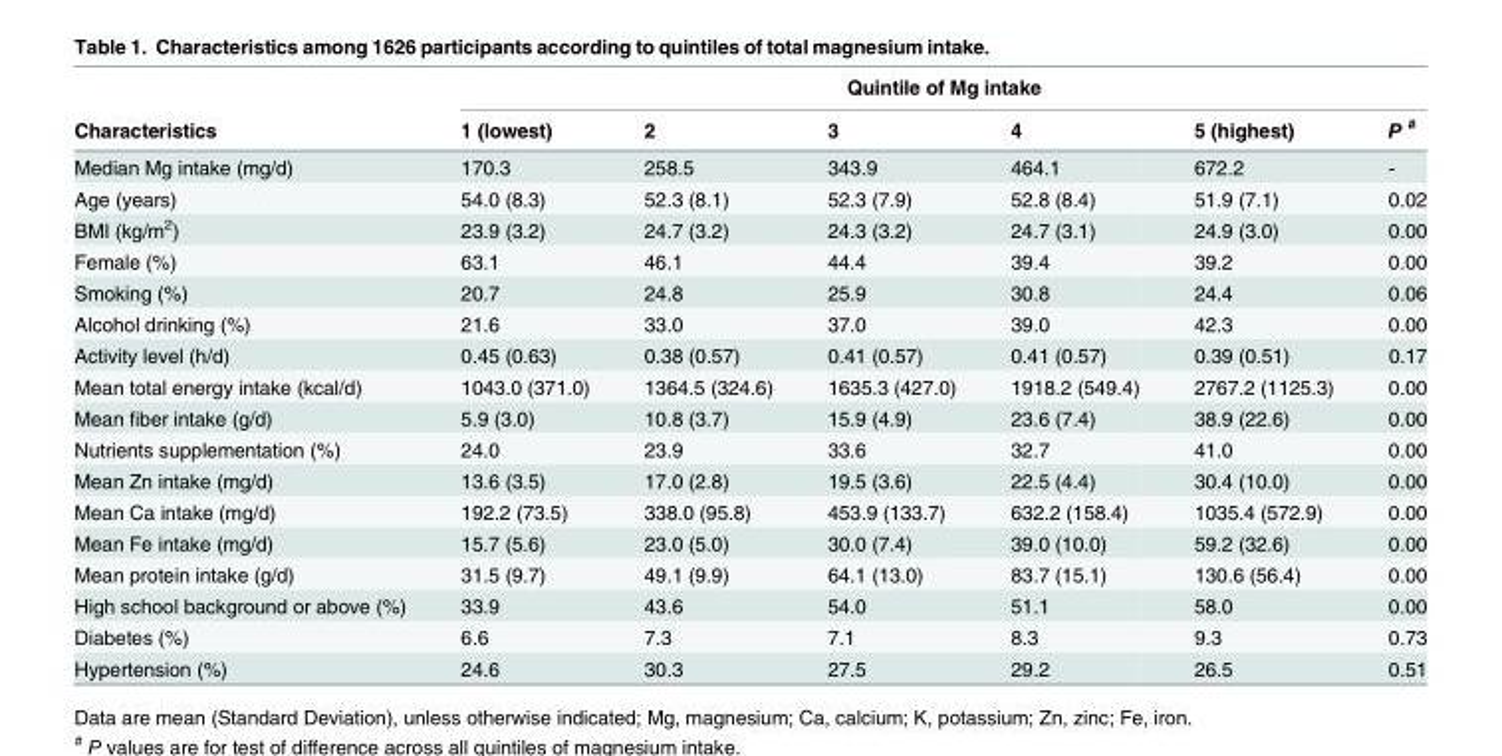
<table><thead><tr><td rowspan="2">Characteristics</td><td colspan="6">Quintile of Mg intake</td></tr><tr><td>1 (lowest)</td><td>2</td><td>3</td><td>4</td><td>5 (highest)</td><td>P <sup>#</sup></td></tr></thead><tbody><tr><td>Median Mg intake (mg/d)</td><td>170.3</td><td>258.5</td><td>343.9</td><td>464.1</td><td>672.2</td><td>-</td></tr><tr><td>Age (years)</td><td>54.0 (8.3)</td><td>52.3 (8.1)</td><td>52.3 (7.9)</td><td>52.8 (8.4)</td><td>51.9 (7.1)</td><td>0.02</td></tr><tr><td>BMI (kg/m<sup>2</sup>)</td><td>23.9 (3.2)</td><td>24.7 (3.2)</td><td>24.3 (3.2)</td><td>24.7 (3.1)</td><td>24.9 (3.0)</td><td>0.00</td></tr><tr><td>Female (%)</td><td>63.1</td><td>46.1</td><td>44.4</td><td>39.4</td><td>39.2</td><td>0.00</td></tr><tr><td>Smoking (%)</td><td>20.7</td><td>24.8</td><td>25.9</td><td>30.8</td><td>24.4</td><td>0.06</td></tr><tr><td>Alcohol drinking (%)</td><td>21.6</td><td>33.0</td><td>37.0</td><td>39.0</td><td>42.3</td><td>0.00</td></tr><tr><td>Activity level (h/d)</td><td>0.45 (0.63)</td><td>0.38 (0.57)</td><td>0.41 (0.57)</td><td>0.41 (0.57)</td><td>0.39 (0.51)</td><td>0.17</td></tr><tr><td>Mean total energy intake (kcal/d)</td><td>1043.0 (371.0)</td><td>1364.5 (324.6)</td><td>1635.3 (427.0)</td><td>1918.2 (549.4)</td><td>2767.2 (1125.3)</td><td>0.00</td></tr><tr><td>Mean fiber intake (g/d)</td><td>5.9 (3.0)</td><td>10.8 (3.7)</td><td>15.9 (4.9)</td><td>23.6 (7.4)</td><td>38.9 (22.6)</td><td>0.00</td></tr><tr><td>Nutrients supplementation (%)</td><td>24.0</td><td>23.9</td><td>33.6</td><td>32.7</td><td>41.0</td><td>0.00</td></tr><tr><td>Mean Zn intake (mg/d)</td><td>13.6 (3.5)</td><td>17.0 (2.8)</td><td>19.5 (3.6)</td><td>22.5 (4.4)</td><td>30.4 (10.0)</td><td>0.00</td></tr><tr><td>Mean Ca intake (mg/d)</td><td>192.2 (73.5)</td><td>338.0 (95.8)</td><td>453.9 (133.7)</td><td>632.2 (158.4)</td><td>1035.4 (572.9)</td><td>0.00</td></tr><tr><td>Mean Fe intake (mg/d)</td><td>15.7 (5.6)</td><td>23.0 (5.0)</td><td>30.0 (7.4)</td><td>39.0 (10.0)</td><td>59.2 (32.6)</td><td>0.00</td></tr><tr><td>Mean protein intake (g/d)</td><td>31.5 (9.7)</td><td>49.1 (9.9)</td><td>64.1 (13.0)</td><td>83.7 (15.1)</td><td>130.6 (56.4)</td><td>0.00</td></tr><tr><td>High school background or above (%)</td><td>33.9</td><td>43.6</td><td>54.0</td><td>51.1</td><td>58.0</td><td>0.00</td></tr><tr><td>Diabetes (%)</td><td>6.6</td><td>7.3</td><td>7.1</td><td>8.3</td><td>9.3</td><td>0.73</td></tr><tr><td>Hypertension (%)</td><td>24.6</td><td>30.3</td><td>27.5</td><td>29.2</td><td>26.5</td><td>0.51</td></tr></tbody></table>